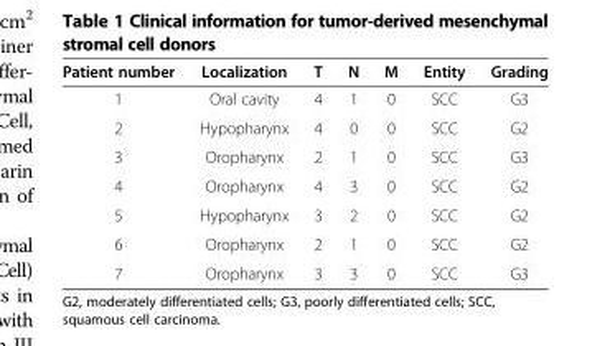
<table><thead><tr><td>Patient number</td><td>Localization</td><td>T</td><td>N</td><td>M</td><td>Entity</td><td>Grading</td></tr></thead><tbody><tr><td>1</td><td>Oral cavity</td><td>4</td><td>1</td><td>0</td><td>SCC</td><td>G3</td></tr><tr><td>2</td><td>Hypopharynx</td><td>4</td><td>0</td><td>0</td><td>SCC</td><td>G2</td></tr><tr><td>3</td><td>Oropharynx</td><td>2</td><td>1</td><td>0</td><td>SCC</td><td>G3</td></tr><tr><td>4</td><td>Oropharynx</td><td>4</td><td>3</td><td>0</td><td>SCC</td><td>G2</td></tr><tr><td>5</td><td>Hypopharynx</td><td>3</td><td>2</td><td>0</td><td>SCC</td><td>G2</td></tr><tr><td>6</td><td>Oropharynx</td><td>2</td><td>1</td><td>0</td><td>SCC</td><td>G2</td></tr><tr><td>7</td><td>Oropharynx</td><td>3</td><td>3</td><td>0</td><td>SCC</td><td>G3</td></tr></tbody></table>